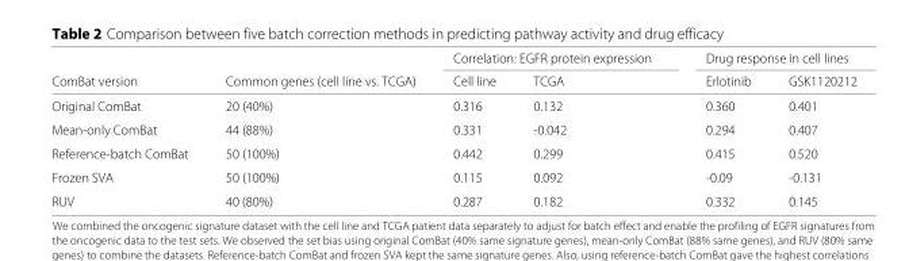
<table><thead><tr><td rowspan="2">ComBat version</td><td rowspan="2">Common genes (cell line vs. TCGA)</td><td colspan="2">Correlation: EGFR protein expression</td><td colspan="2">Drug response in cell lines</td></tr><tr><td>Cell line</td><td>TCGA</td><td>Erlotinib</td><td>GSK1120212</td></tr></thead><tbody><tr><td>Original ComBat</td><td>20 (40%)</td><td>0.316</td><td>0.132</td><td>0.360</td><td>0.401</td></tr><tr><td>Mean-only ComBat</td><td>44 (88%)</td><td>0.331</td><td>-0.042</td><td>0.294</td><td>0.407</td></tr><tr><td>Reference-batch ComBat</td><td>50 (100%)</td><td>0.442</td><td>0.299</td><td>0.415</td><td>0.520</td></tr><tr><td>Frozen SVA</td><td>50 (100%)</td><td>0.115</td><td>0.092</td><td>-0.09</td><td>-0.131</td></tr><tr><td>RUV</td><td>40 (80%)</td><td>0.287</td><td>0.182</td><td>0.332</td><td>0.145</td></tr></tbody></table>